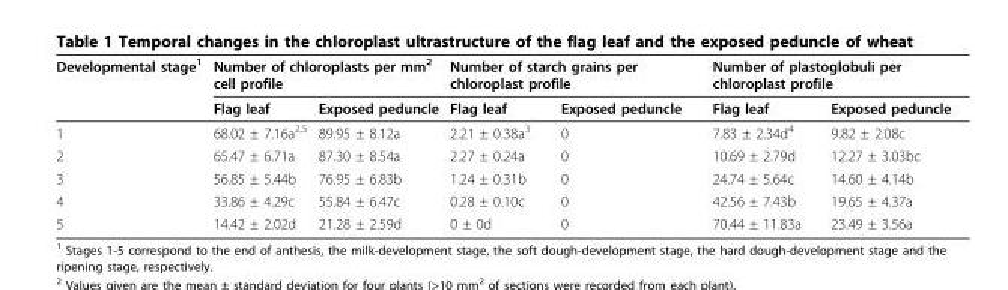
<table><thead><tr><td rowspan="2">Developmental stage<sup>1</sup></td><td colspan="2">Number of chloroplasts per mm<sup>2</sup> cell profile</td><td colspan="2">Number of starch grains per chloroplast profile</td><td colspan="2">Number of plastoglobuli per chloroplast profile</td></tr><tr><td>Flag leaf</td><td>Exposed peduncle</td><td>Flag leaf</td><td>Exposed peduncle</td><td>Flag leaf</td><td>Exposed peduncle</td></tr></thead><tbody><tr><td>1</td><td>68.02 ± 7.16a<sup>2,5</sup></td><td>89.95 ± 8.12a</td><td>2.21 ± 0.38a<sup>3</sup></td><td>0</td><td>7.83 ± 2.34d<sup>4</sup></td><td>9.82 ± 2.08c</td></tr><tr><td>2</td><td>65.47 ± 6.71a</td><td>87.30 ± 8.54a</td><td>2.27 ± 0.24a</td><td>0</td><td>10.69 ± 2.79d</td><td>12.27 ± 3.03bc</td></tr><tr><td>3</td><td>56.85 ± 5.44b</td><td>76.95 ± 6.83b</td><td>1.24 ± 0.31b</td><td>0</td><td>24.74 ± 5.64c</td><td>14.60 ± 4.14b</td></tr><tr><td>4</td><td>33.86 ± 4.29c</td><td>55.84 ± 6.47c</td><td>0.28 ± 0.10c</td><td>0</td><td>42.56 ± 7.43b</td><td>19.65 ± 4.37a</td></tr><tr><td>5</td><td>14.42 ± 2.02d</td><td>21.28 ± 2.59d</td><td>0 ± 0d</td><td>0</td><td>70.44 ± 11.83a</td><td>23.49 ± 3.56a</td></tr></tbody></table>